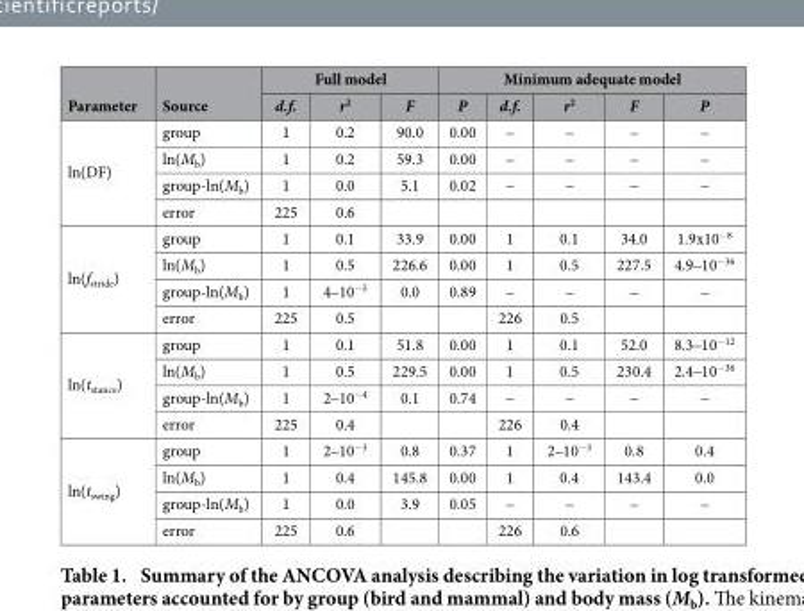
<table><thead><tr><td rowspan="2">Parameter</td><td rowspan="2">Source</td><td colspan="3">Full model</td><td colspan="5">Minimum adequate model</td></tr><tr><td>d.f.</td><td>r<sup>2</sup></td><td>F</td><td>P</td><td>d.f.</td><td>r<sup>2</sup></td><td>F</td><td>P</td></tr></thead><tbody><tr><td rowspan="4">ln(DF)</td><td>group</td><td>1</td><td>0.2</td><td>90.0</td><td>0.00</td><td>–</td><td>–</td><td>–</td><td>–</td></tr><tr><td>ln(M<sub>b</sub>)</td><td>1</td><td>0.2</td><td>59.3</td><td>0.00</td><td>–</td><td>–</td><td>–</td><td>–</td></tr><tr><td>group- ln(M<sub>b</sub>)</td><td>1</td><td>0.0</td><td>5.1</td><td>0.02</td><td>–</td><td>–</td><td>–</td><td>–</td></tr><tr><td>error</td><td>225</td><td>0.6</td><td></td><td></td><td></td><td></td><td></td><td></td></tr><tr><td rowspan="4">ln(f<sub>stride</sub>)</td><td>group</td><td>1</td><td>0.1</td><td>33.9</td><td>0.00</td><td>1</td><td>0.1</td><td>34.0</td><td>1.9x10<sup>−8</sup></td></tr><tr><td>ln(M<sub>b</sub>)</td><td>1</td><td>0.5</td><td>226.6</td><td>0.00</td><td>1</td><td>0.5</td><td>227.5</td><td>4.9– 10<sup>−36</sup></td></tr><tr><td>group- ln(M<sub>b</sub>)</td><td>1</td><td>4– 10<sup>−5</sup></td><td>0.0</td><td>0.89</td><td>–</td><td>–</td><td>–</td><td>–</td></tr><tr><td>error</td><td>225</td><td>0.5</td><td></td><td></td><td>226</td><td>0.5</td><td></td><td></td></tr><tr><td rowspan="4">ln(t<sub>stance</sub>)</td><td>group</td><td>1</td><td>0.1</td><td>51.8</td><td>0.00</td><td>1</td><td>0.1</td><td>52.0</td><td>8.3– 10<sup>−12</sup></td></tr><tr><td>ln(M<sub>b</sub>)</td><td>1</td><td>0.5</td><td>229.5</td><td>0.00</td><td>1</td><td>0.5</td><td>230.4</td><td>2.4– 10<sup>−36</sup></td></tr><tr><td>group- ln(M<sub>b</sub>)</td><td>1</td><td>2– 10<sup>−4</sup></td><td>0.1</td><td>0.74</td><td>–</td><td>–</td><td>–</td><td>–</td></tr><tr><td>error</td><td>225</td><td>0.4</td><td></td><td></td><td>226</td><td>0.4</td><td></td><td></td></tr><tr><td rowspan="4">ln(t<sub>swing</sub>)</td><td>group</td><td>1</td><td>2– 10<sup>−3</sup></td><td>0.8</td><td>0.37</td><td>1</td><td>2– 10<sup>−3</sup></td><td>0.8</td><td>0.4</td></tr><tr><td>ln(M<sub>b</sub>)</td><td>1</td><td>0.4</td><td>145.8</td><td>0.00</td><td>1</td><td>0.4</td><td>143.4</td><td>0.0</td></tr><tr><td>group- ln(M<sub>b</sub>)</td><td>1</td><td>0.0</td><td>3.9</td><td>0.05</td><td>–</td><td>–</td><td>–</td><td>–</td></tr><tr><td>error</td><td>225</td><td>0.6</td><td></td><td></td><td>226</td><td>0.6</td><td></td><td></td></tr></tbody></table>